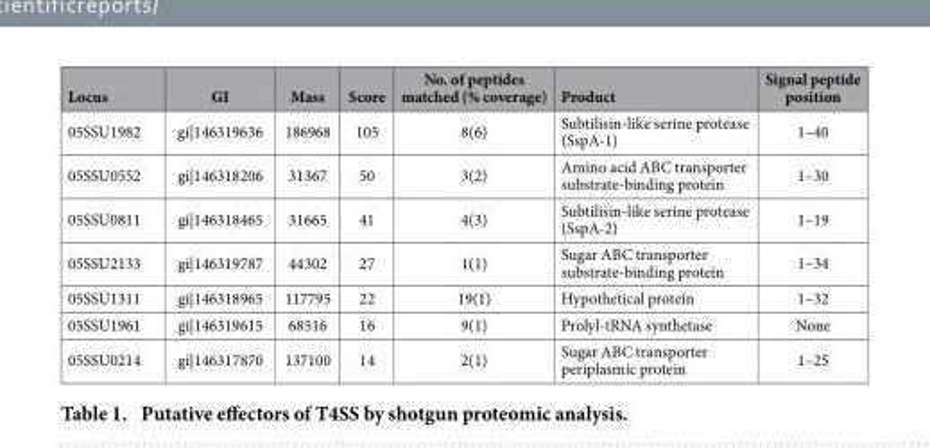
<table><thead><tr><td>Locus</td><td>GI</td><td>Mass</td><td>Score</td><td>No. of peptides matched (% coverage)</td><td>Product</td><td>Signal peptide position</td></tr></thead><tbody><tr><td>05SSU1982</td><td>gi|146319636</td><td>186968</td><td>105</td><td>8(6)</td><td>Subtilisin-like serine protease (SspA-1)</td><td>1–40</td></tr><tr><td>05SSU0552</td><td>gi|146318206</td><td>31367</td><td>50</td><td>3(2)</td><td>Amino acid ABC transporter substrate-binding protein</td><td>1–30</td></tr><tr><td>05SSU0811</td><td>gi|146318465</td><td>31665</td><td>41</td><td>4(3)</td><td>Subtilisin-like serine protease (SspA-2)</td><td>1–19</td></tr><tr><td>05SSU2133</td><td>gi|146319787</td><td>44302</td><td>27</td><td>1(1)</td><td>Sugar ABC transporter substrate-binding protein</td><td>1–34</td></tr><tr><td>05SSU1311</td><td>gi|146318965</td><td>117795</td><td>22</td><td>19(1)</td><td>Hypothetical protein</td><td>1–32</td></tr><tr><td>05SSU1961</td><td>gi|146319615</td><td>68516</td><td>16</td><td>9(1)</td><td>Prolyl-tRNA synthetase</td><td>None</td></tr><tr><td>05SSU0214</td><td>gi|146317870</td><td>137100</td><td>14</td><td>2(1)</td><td>Sugar ABC transporter periplasmic protein</td><td>1–25</td></tr></tbody></table>